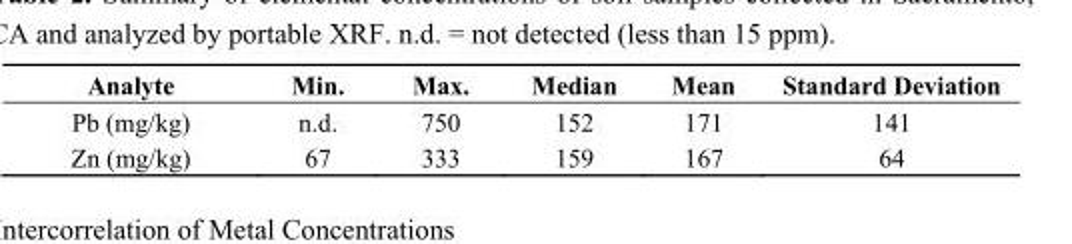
<table><thead><tr><td>Analyte</td><td>Min.</td><td>Max.</td><td>Median</td><td>Mean</td><td>Standard Deviation</td></tr></thead><tbody><tr><td>Pb (mg/kg)</td><td>n.d.</td><td>750</td><td>152</td><td>171</td><td>141</td></tr><tr><td>Zn (mg/kg)</td><td>67</td><td>333</td><td>159</td><td>167</td><td>64</td></tr></tbody></table>